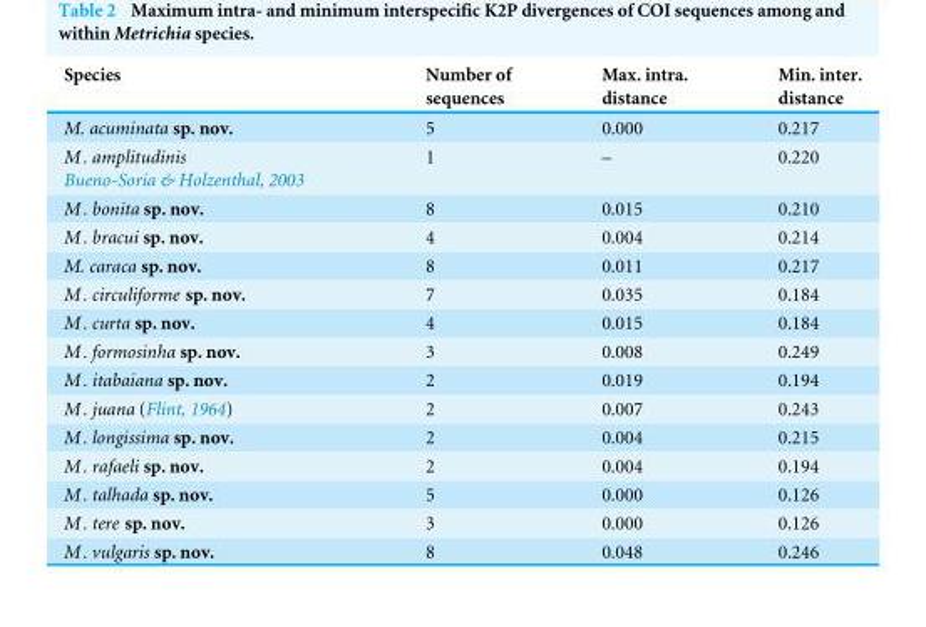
<table><thead><tr><td>Species</td><td>Number of sequences</td><td>Max. intra. distance</td><td>Min. inter. distance</td></tr></thead><tbody><tr><td>M. acuminata sp. nov.</td><td>5</td><td>0.000</td><td>0.217</td></tr><tr><td>M. amplitudinis Bueno-Soria &amp; Holzenthal, 2003</td><td>1</td><td>–</td><td>0.220</td></tr><tr><td>M. bonita sp. nov.</td><td>8</td><td>0.015</td><td>0.210</td></tr><tr><td>M. bracui sp. nov.</td><td>4</td><td>0.004</td><td>0.214</td></tr><tr><td>M. caraca sp. nov.</td><td>8</td><td>0.011</td><td>0.217</td></tr><tr><td>M. circuliforme sp. nov.</td><td>7</td><td>0.035</td><td>0.184</td></tr><tr><td>M. curta sp. nov.</td><td>4</td><td>0.015</td><td>0.184</td></tr><tr><td>M. formosinha sp. nov.</td><td>3</td><td>0.008</td><td>0.249</td></tr><tr><td>M. itabaiana sp. nov.</td><td>2</td><td>0.019</td><td>0.194</td></tr><tr><td>M. juana (Flint, 1964)</td><td>2</td><td>0.007</td><td>0.243</td></tr><tr><td>M. longissima sp. nov.</td><td>2</td><td>0.004</td><td>0.215</td></tr><tr><td>M. rafaeli sp. nov.</td><td>2</td><td>0.004</td><td>0.194</td></tr><tr><td>M. talhada sp. nov.</td><td>5</td><td>0.000</td><td>0.126</td></tr><tr><td>M. tere sp. nov.</td><td>3</td><td>0.000</td><td>0.126</td></tr><tr><td>M. vulgaris sp. nov.</td><td>8</td><td>0.048</td><td>0.246</td></tr></tbody></table>